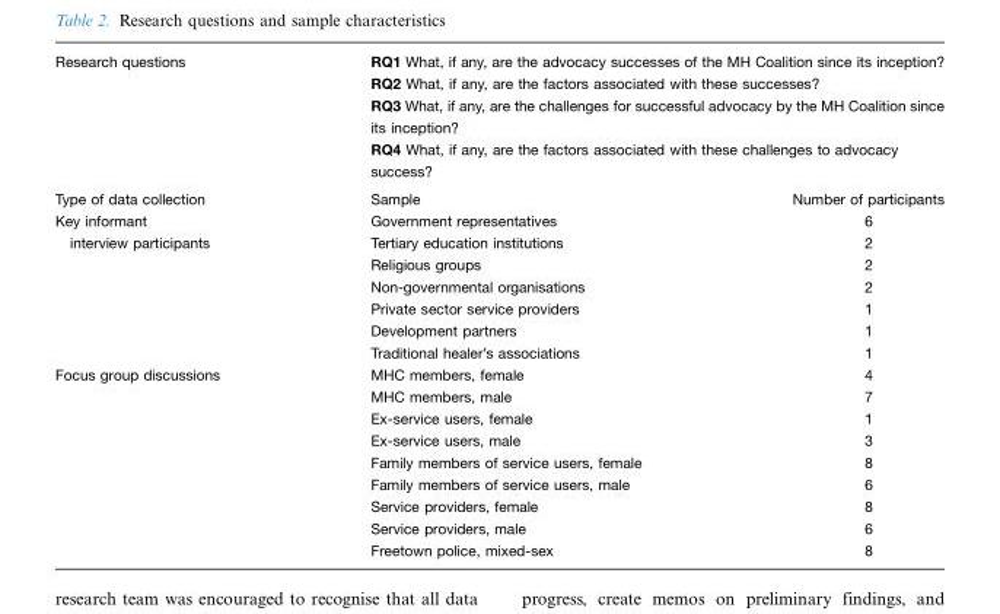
<table><tbody><tr><td>Research questions</td><td colspan="2">RQ1 What, if any, are the advocacy successes of the MH Coalition since its inception? RQ2 What, if any, are the factors associated with these successes? RQ3 What, if any, are the challenges for successful advocacy by the MH Coalition since its inception? RQ4 What, if any, are the factors associated with these challenges to advocacy success?</td></tr><tr><td>Type of data collection</td><td>Sample</td><td>Number of participants</td></tr><tr><td>Key informant</td><td>Government representatives</td><td>6</td></tr><tr><td rowspan="6">interview participants</td><td>Tertiary education institutions</td><td>2</td></tr><tr><td>Religious groups</td><td>2</td></tr><tr><td>Non-governmental organisations</td><td>2</td></tr><tr><td>Private sector service providers</td><td>1</td></tr><tr><td>Development partners</td><td>1</td></tr><tr><td>Traditional healer’s associations</td><td>1</td></tr><tr><td rowspan="9">Focus group discussions</td><td>MHC members, female</td><td>4</td></tr><tr><td>MHC members, male</td><td>7</td></tr><tr><td>Ex-service users, female</td><td>1</td></tr><tr><td>Ex-service users, male</td><td>3</td></tr><tr><td>Family members of service users, female</td><td>8</td></tr><tr><td>Family members of service users, male</td><td>6</td></tr><tr><td>Service providers, female</td><td>8</td></tr><tr><td>Service providers, male</td><td>6</td></tr><tr><td>Freetown police, mixed-sex</td><td>8</td></tr></tbody></table>